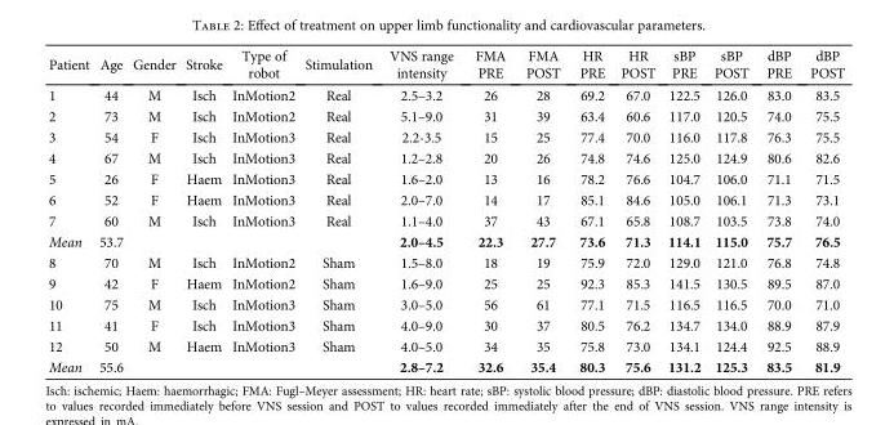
<table><thead><tr><td>Patient</td><td>Age</td><td>Gender</td><td>Stroke</td><td>Type of robot</td><td>Stimulation</td><td>VNS range intensity</td><td>FMA PRE</td><td>FMA POST</td><td>HR PRE</td><td>HR POST</td><td>sBP PRE</td><td>sBP POST</td><td>dBP PRE</td><td>dBP POST</td></tr></thead><tbody><tr><td>1</td><td>44</td><td>M</td><td>Isch</td><td>InMotion2</td><td>Real</td><td>2.5–3.2</td><td>26</td><td>28</td><td>69.2</td><td>67.0</td><td>122.5</td><td>126.0</td><td>83.0</td><td>83.5</td></tr><tr><td>2</td><td>73</td><td>M</td><td>Isch</td><td>InMotion2</td><td>Real</td><td>5.1–9.0</td><td>31</td><td>39</td><td>63.4</td><td>60.6</td><td>117.0</td><td>120.5</td><td>74.0</td><td>75.5</td></tr><tr><td>3</td><td>54</td><td>F</td><td>Isch</td><td>InMotion3</td><td>Real</td><td>2.2-3.5</td><td>15</td><td>25</td><td>77.4</td><td>70.0</td><td>116.0</td><td>117.8</td><td>76.3</td><td>75.5</td></tr><tr><td>4</td><td>67</td><td>M</td><td>Isch</td><td>InMotion3</td><td>Real</td><td>1.2–2.8</td><td>20</td><td>26</td><td>74.8</td><td>74.6</td><td>125.0</td><td>124.9</td><td>80.6</td><td>82.6</td></tr><tr><td>5</td><td>26</td><td>F</td><td>Haem</td><td>InMotion3</td><td>Real</td><td>1.6–2.0</td><td>13</td><td>16</td><td>78.2</td><td>76.6</td><td>104.7</td><td>106.0</td><td>71.1</td><td>71.5</td></tr><tr><td>6</td><td>52</td><td>F</td><td>Haem</td><td>InMotion3</td><td>Real</td><td>2.0–7.0</td><td>14</td><td>17</td><td>85.1</td><td>84.6</td><td>105.0</td><td>106.1</td><td>71.3</td><td>73.1</td></tr><tr><td>7</td><td>60</td><td>M</td><td>Isch</td><td>InMotion3</td><td>Real</td><td>1.1–4.0</td><td>37</td><td>43</td><td>67.1</td><td>65.8</td><td>108.7</td><td>103.5</td><td>73.8</td><td>74.0</td></tr><tr><td>Mean</td><td>53.7</td><td></td><td></td><td></td><td></td><td>2.0–4.5</td><td>22.3</td><td>27.7</td><td>73.6</td><td>71.3</td><td>114.1</td><td>115.0</td><td>75.7</td><td>76.5</td></tr><tr><td>8</td><td>70</td><td>M</td><td>Isch</td><td>InMotion2</td><td>Sham</td><td>1.5–8.0</td><td>18</td><td>19</td><td>75.9</td><td>72.0</td><td>129.0</td><td>121.0</td><td>76.8</td><td>74.8</td></tr><tr><td>9</td><td>42</td><td>F</td><td>Haem</td><td>InMotion2</td><td>Sham</td><td>1.6–9.0</td><td>25</td><td>25</td><td>92.3</td><td>85.3</td><td>141.5</td><td>130.5</td><td>89.5</td><td>87.0</td></tr><tr><td>10</td><td>75</td><td>M</td><td>Isch</td><td>InMotion3</td><td>Sham</td><td>3.0–5.0</td><td>56</td><td>61</td><td>77.1</td><td>71.5</td><td>116.5</td><td>116.5</td><td>70.0</td><td>71.0</td></tr><tr><td>11</td><td>41</td><td>F</td><td>Isch</td><td>InMotion3</td><td>Sham</td><td>4.0–9.0</td><td>30</td><td>37</td><td>80.5</td><td>76.2</td><td>134.7</td><td>134.0</td><td>88.9</td><td>87.9</td></tr><tr><td>12</td><td>50</td><td>M</td><td>Haem</td><td>InMotion3</td><td>Sham</td><td>4.0–5.0</td><td>34</td><td>35</td><td>75.8</td><td>73.0</td><td>134.1</td><td>124.4</td><td>92.5</td><td>88.9</td></tr><tr><td>Mean</td><td>55.6</td><td></td><td></td><td></td><td></td><td>2.8–7.2</td><td>32.6</td><td>35.4</td><td>80.3</td><td>75.6</td><td>131.2</td><td>125.3</td><td>83.5</td><td>81.9</td></tr></tbody></table>